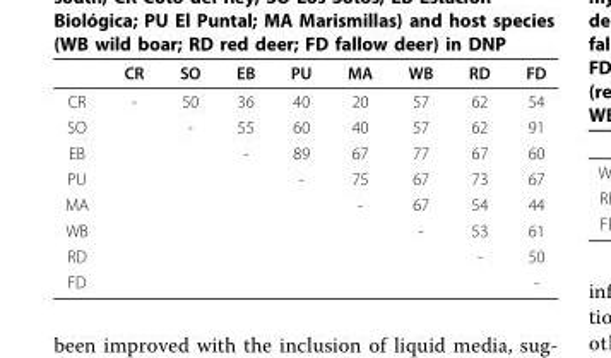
<table><thead><tr><td></td><td>CR</td><td>SO</td><td>EB</td><td>PU</td><td>MA</td><td>WB</td><td>RD</td><td>FD</td></tr></thead><tbody><tr><td>CR</td><td>-</td><td>50</td><td>36</td><td>40</td><td>20</td><td>57</td><td>62</td><td>54</td></tr><tr><td>SO</td><td></td><td>-</td><td>55</td><td>60</td><td>40</td><td>57</td><td>62</td><td>91</td></tr><tr><td>EB</td><td></td><td></td><td>-</td><td>89</td><td>67</td><td>77</td><td>67</td><td>60</td></tr><tr><td>PU</td><td></td><td></td><td></td><td>-</td><td>75</td><td>67</td><td>73</td><td>67</td></tr><tr><td>MA</td><td></td><td></td><td></td><td></td><td>-</td><td>67</td><td>54</td><td>44</td></tr><tr><td>WB</td><td></td><td></td><td></td><td></td><td></td><td>-</td><td>53</td><td>61</td></tr><tr><td>RD</td><td></td><td></td><td></td><td></td><td></td><td></td><td>-</td><td>50</td></tr><tr><td>FD</td><td></td><td></td><td></td><td></td><td></td><td></td><td></td><td>-</td></tr></tbody></table>